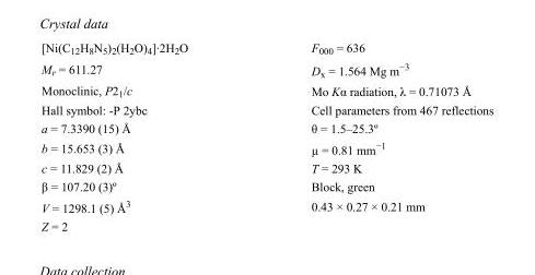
<table><tbody><tr><td>[Ni(C<sub>12</sub>H<sub>8</sub>N<sub>5</sub>)<sub>2</sub>(H<sub>2</sub>O)<sub>4</sub>]·2H<sub>2</sub>O</td><td>F000 = 636</td></tr><tr><td>M<sub>r</sub> = 611.27</td><td>D<sub>x</sub> = 1.564 Mg m<sup>−3</sup></td></tr><tr><td>Monoclinic, P2<sub>1</sub>/c</td><td>Mo Kα radiation, λ = 0.71073 Å</td></tr><tr><td>Hall symbol: -P 2ybc</td><td>Cell parameters from 467 reflections</td></tr><tr><td>a = 7.3390 (15) Å</td><td>θ = 1.5–25.3º</td></tr><tr><td>b = 15.653 (3) Å</td><td>µ = 0.81 mm<sup>−1</sup></td></tr><tr><td>c = 11.829 (2) Å</td><td>T = 293 K</td></tr><tr><td>β = 107.20 (3)º</td><td>Block, green</td></tr><tr><td>V = 1298.1 (5) Å<sup>3</sup></td><td>0.43 × 0.27 × 0.21 mm</td></tr><tr><td>Z = 2</td><td></td></tr></tbody></table>